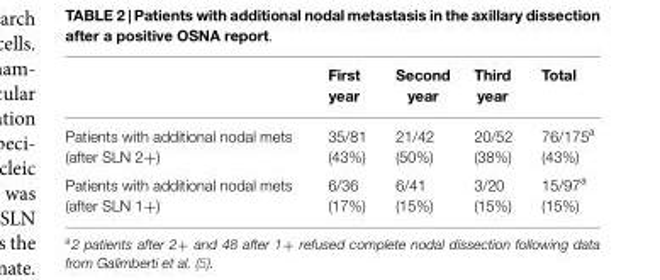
<table><thead><tr><td></td><td>First year</td><td>Second year</td><td>Third year</td><td>Total</td></tr></thead><tbody><tr><td>Patients with additional nodal mets (after SLN 2+)</td><td>35/81 (43%)</td><td>21/42 (50%)</td><td>20/52 (38%)</td><td>76/175<sup>a</sup> (43%)</td></tr><tr><td>Patients with additional nodal mets (after SLN 1+)</td><td>6/36 (17%)</td><td>6/41 (15%)</td><td>3/20 (15%)</td><td>15/97<sup>a</sup> (15%)</td></tr></tbody></table>